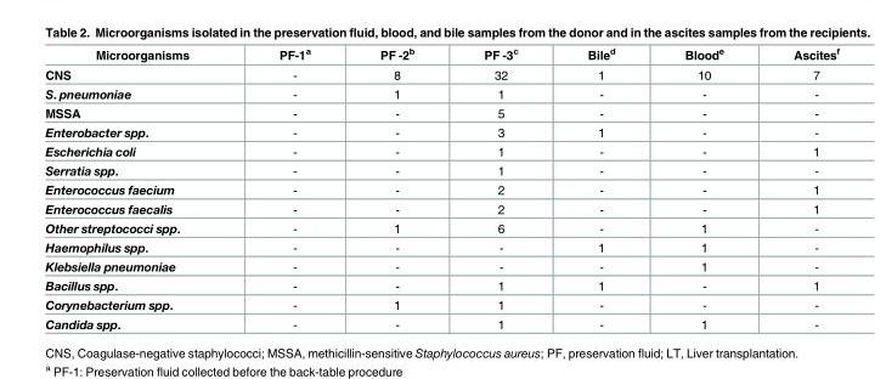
<table><thead><tr><td>Microorganisms</td><td>PF-1<sup>a</sup></td><td>PF -2<sup>b</sup></td><td>PF -3<sup>c</sup></td><td>Bile<sup>d</sup></td><td>Blood<sup>e</sup></td><td>Ascites<sup>f</sup></td></tr></thead><tbody><tr><td>CNS</td><td>-</td><td>8</td><td>32</td><td>1</td><td>10</td><td>7</td></tr><tr><td>S. pneumoniae</td><td>-</td><td>1</td><td>1</td><td>-</td><td>-</td><td>-</td></tr><tr><td>MSSA</td><td>-</td><td>-</td><td>5</td><td>-</td><td>-</td><td>-</td></tr><tr><td>Enterobacter spp.</td><td>-</td><td>-</td><td>3</td><td>1</td><td>-</td><td>-</td></tr><tr><td>Escherichia coli</td><td>-</td><td>-</td><td>1</td><td>-</td><td>-</td><td>1</td></tr><tr><td>Serratia spp.</td><td>-</td><td>-</td><td>1</td><td>-</td><td>-</td><td>-</td></tr><tr><td>Enterococcus faecium</td><td>-</td><td>-</td><td>2</td><td>-</td><td>-</td><td>1</td></tr><tr><td>Enterococcus faecalis</td><td>-</td><td>-</td><td>2</td><td>-</td><td>-</td><td>1</td></tr><tr><td>Other streptococci spp.</td><td>-</td><td>1</td><td>6</td><td>-</td><td>1</td><td>-</td></tr><tr><td>Haemophilus spp.</td><td>-</td><td>-</td><td>-</td><td>1</td><td>1</td><td>-</td></tr><tr><td>Klebsiella pneumoniae</td><td>-</td><td>-</td><td>-</td><td>-</td><td>1</td><td>-</td></tr><tr><td>Bacillus spp.</td><td>-</td><td>-</td><td>1</td><td>1</td><td>-</td><td>1</td></tr><tr><td>Corynebacterium spp.</td><td>-</td><td>1</td><td>1</td><td>-</td><td>-</td><td>-</td></tr><tr><td>Candida spp.</td><td>-</td><td>-</td><td>1</td><td>-</td><td>1</td><td>-</td></tr></tbody></table>